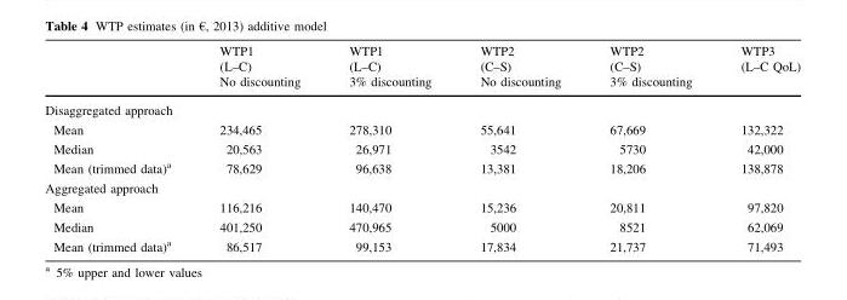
<table><thead><tr><td></td><td>WTP1 (L–C) No discounting</td><td>WTP1 (L–C) 3% discounting</td><td>WTP2 (C–S) No discounting</td><td>WTP2 (C–S) 3% discounting</td><td>WTP3 (L–C QoL)</td></tr></thead><tbody><tr><td colspan="6">Disaggregated approach</td></tr><tr><td>Mean</td><td>234,465</td><td>278,310</td><td>55,641</td><td>67,669</td><td>132,322</td></tr><tr><td>Median</td><td>20,563</td><td>26,971</td><td>3542</td><td>5730</td><td>42,000</td></tr><tr><td>Mean (trimmed data)<sup>a</sup></td><td>78,629</td><td>96,638</td><td>13,381</td><td>18,206</td><td>138,878</td></tr><tr><td colspan="6">Aggregated approach</td></tr><tr><td>Mean</td><td>116,216</td><td>140,470</td><td>15,236</td><td>20,811</td><td>97,820</td></tr><tr><td>Median</td><td>401,250</td><td>470,965</td><td>5000</td><td>8521</td><td>62,069</td></tr><tr><td>Mean (trimmed data)<sup>a</sup></td><td>86,517</td><td>99,153</td><td>17,834</td><td>21,737</td><td>71,493</td></tr></tbody></table>